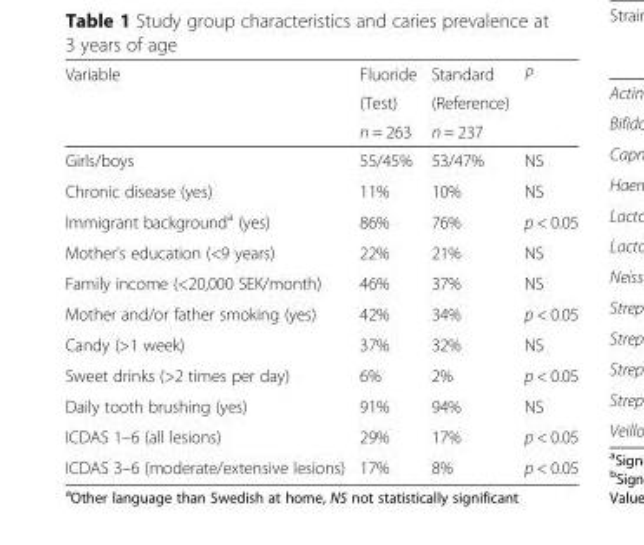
<table><thead><tr><td rowspan="3">Variable</td><td rowspan="3">Fluoride (Test) n = 263</td><td rowspan="3">Standard (Reference) n = 237</td><td rowspan="3">P</td></tr><tr></tr><tr></tr></thead><tbody><tr><td>Girls/boys</td><td>55/45%</td><td>53/47%</td><td>NS</td></tr><tr><td>Chronic disease (yes)</td><td>11%</td><td>10%</td><td>NS</td></tr><tr><td>Immigrant background<sup>a</sup> (yes)</td><td>86%</td><td>76%</td><td>p &lt; 0.05</td></tr><tr><td>Mother’s education (&lt;9 years)</td><td>22%</td><td>21%</td><td>NS</td></tr><tr><td>Family income (&lt;20,000 SEK/month)</td><td>46%</td><td>37%</td><td>NS</td></tr><tr><td>Mother and/or father smoking (yes)</td><td>42%</td><td>34%</td><td>p &lt; 0.05</td></tr><tr><td>Candy (&gt;1 week)</td><td>37%</td><td>32%</td><td>NS</td></tr><tr><td>Sweet drinks (&gt;2 times per day)</td><td>6%</td><td>2%</td><td>p &lt; 0.05</td></tr><tr><td>Daily tooth brushing (yes)</td><td>91%</td><td>94%</td><td>NS</td></tr><tr><td>ICDAS 1–6 (all lesions)</td><td>29%</td><td>17%</td><td>p &lt; 0.05</td></tr><tr><td>ICDAS 3–6 (moderate/extensive lesions)</td><td>17%</td><td>8%</td><td>p &lt; 0.05</td></tr></tbody></table>